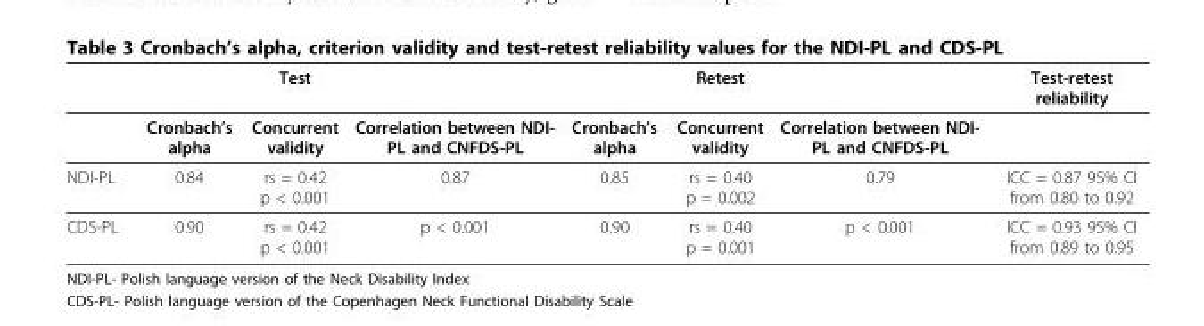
<table><thead><tr><td></td><td></td><td>Test</td><td></td><td></td><td>Retest</td><td></td><td>Test-retest reliability</td></tr></thead><tbody><tr><td></td><td>Cronbach’s alpha</td><td>Concurrent validity</td><td>Correlation between NDI- PL and CNFDS-PL</td><td>Cronbach’s alpha</td><td>Concurrent validity</td><td>Correlation between NDI- PL and CNFDS-PL</td><td></td></tr><tr><td>NDI-PL</td><td>0.84</td><td>rs = 0.42 p &lt; 0.001</td><td>0.87</td><td>0.85</td><td>rs = 0.40 p = 0.002</td><td>0.79</td><td>ICC = 0.87 95% CI from 0.80 to 0.92</td></tr><tr><td>CDS-PL</td><td>0.90</td><td>rs = 0.42 p &lt; 0.001</td><td>p &lt; 0.001</td><td>0.90</td><td>rs = 0.40 p = 0.001</td><td>p &lt; 0.001</td><td>ICC = 0.93 95% CI from 0.89 to 0.95</td></tr></tbody></table>